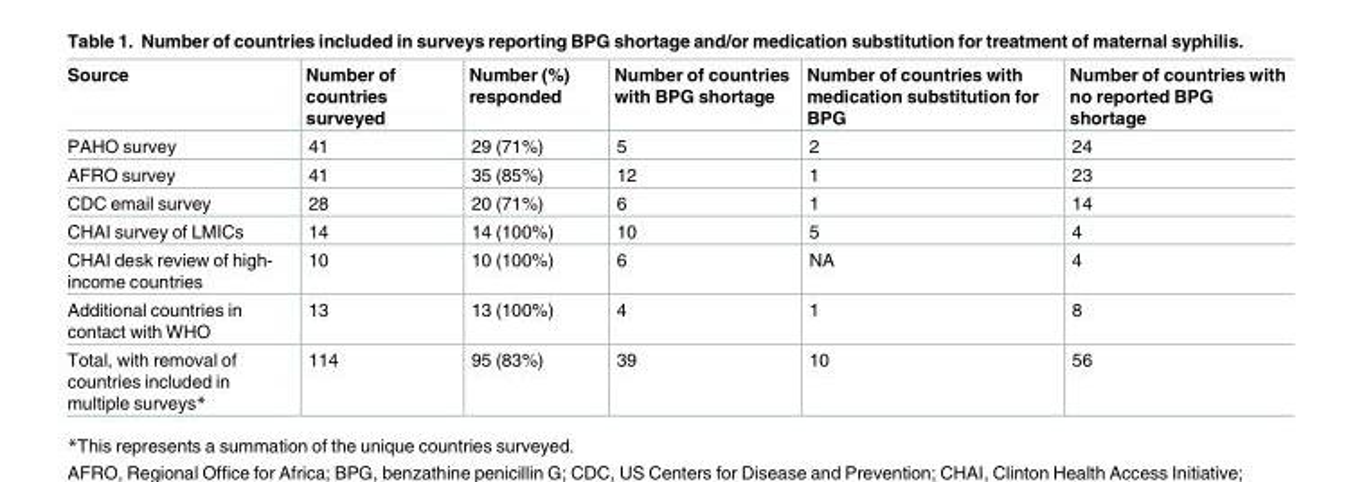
<table><thead><tr><td>Source</td><td>Number of countries surveyed</td><td>Number (%) responded</td><td>Number of countries with BPG shortage</td><td>Number of countries with medication substitution for BPG</td><td>Number of countries with no reported BPG shortage</td></tr></thead><tbody><tr><td>PAHO survey</td><td>41</td><td>29 (71%)</td><td>5</td><td>2</td><td>24</td></tr><tr><td>AFRO survey</td><td>41</td><td>35 (85%)</td><td>12</td><td>1</td><td>23</td></tr><tr><td>CDC email survey</td><td>28</td><td>20 (71%)</td><td>6</td><td>1</td><td>14</td></tr><tr><td>CHAI survey of LMICs</td><td>14</td><td>14 (100%)</td><td>10</td><td>5</td><td>4</td></tr><tr><td>CHAI desk review of high- income countries</td><td>10</td><td>10 (100%)</td><td>6</td><td>NA</td><td>4</td></tr><tr><td>Additional countries in contact with WHO</td><td>13</td><td>13 (100%)</td><td>4</td><td>1</td><td>8</td></tr><tr><td>Total, with removal of countries included in multiple surveys*</td><td>114</td><td>95 (83%)</td><td>39</td><td>10</td><td>56</td></tr></tbody></table>